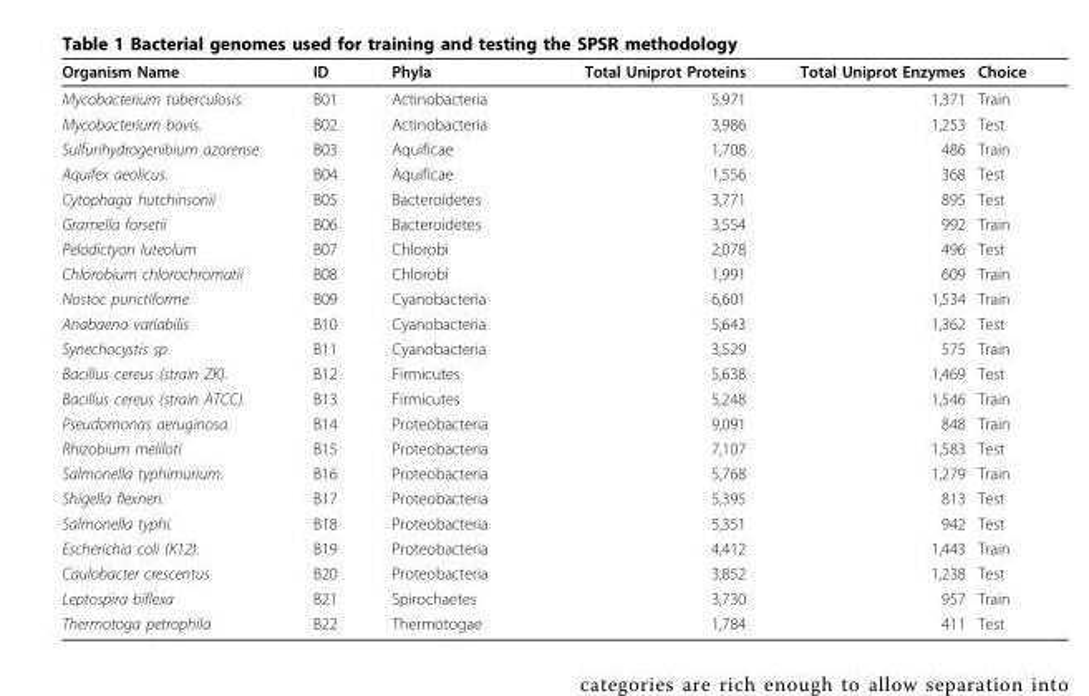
<table><thead><tr><td>Organism Name</td><td>ID</td><td>Phyla</td><td>Total Uniprot Proteins</td><td>Total Uniprot Enzymes</td><td>Choice</td></tr></thead><tbody><tr><td>Mycobacterium tuberculosis.</td><td>B01</td><td>Actinobacteria</td><td>5,971</td><td>1,371</td><td>Train</td></tr><tr><td>Mycobacterium bovis.</td><td>B02</td><td>Actinobacteria</td><td>3,986</td><td>1,253</td><td>Test</td></tr><tr><td>Sulfurihydrogenibium azorense</td><td>B03</td><td>Aquificae</td><td>1,708</td><td>486</td><td>Train</td></tr><tr><td>Aquifex aeolicus.</td><td>B04</td><td>Aquificae</td><td>1,556</td><td>368</td><td>Test</td></tr><tr><td>Cytophaga hutchinsonii</td><td>B05</td><td>Bacteroidetes</td><td>3,771</td><td>895</td><td>Test</td></tr><tr><td>Gramella forsetii</td><td>B06</td><td>Bacteroidetes</td><td>3,554</td><td>992</td><td>Train</td></tr><tr><td>Pelodictyon luteolum</td><td>B07</td><td>Chlorobi</td><td>2,078</td><td>496</td><td>Test</td></tr><tr><td>Chlorobium chlorochromatii</td><td>B08</td><td>Chlorobi</td><td>1,991</td><td>609</td><td>Train</td></tr><tr><td>Nostoc punctiforme</td><td>B09</td><td>Cyanobacteria</td><td>6,601</td><td>1,534</td><td>Train</td></tr><tr><td>Anabaena variabilis</td><td>B10</td><td>Cyanobacteria</td><td>5,643</td><td>1,362</td><td>Test</td></tr><tr><td>Synechocystis sp</td><td>B11</td><td>Cyanobacteria</td><td>3,529</td><td>575</td><td>Train</td></tr><tr><td>Bacillus cereus (strain ZK).</td><td>B12</td><td>Firmicutes</td><td>5,638</td><td>1,469</td><td>Test</td></tr><tr><td>Bacillus cereus (strain ATCC).</td><td>B13</td><td>Firmicutes</td><td>5,248</td><td>1,546</td><td>Train</td></tr><tr><td>Pseudomonas aeruginosa.</td><td>B14</td><td>Proteobacteria</td><td>9,091</td><td>848</td><td>Train</td></tr><tr><td>Rhizobium meliloti</td><td>B15</td><td>Proteobacteria</td><td>7,107</td><td>1,583</td><td>Test</td></tr><tr><td>Salmonella typhimurium.</td><td>B16</td><td>Proteobacteria</td><td>5,768</td><td>1,279</td><td>Train</td></tr><tr><td>Shigella flexneri.</td><td>B17</td><td>Proteobacteria</td><td>5,395</td><td>813</td><td>Test</td></tr><tr><td>Salmonella typhi.</td><td>B18</td><td>Proteobacteria</td><td>5,351</td><td>942</td><td>Test</td></tr><tr><td>Escherichia coli (K12).</td><td>B19</td><td>Proteobacteria</td><td>4,412</td><td>1,443</td><td>Train</td></tr><tr><td>Caulobacter crescentus</td><td>B20</td><td>Proteobacteria</td><td>3,852</td><td>1,238</td><td>Test</td></tr><tr><td>Leptospira biflexa</td><td>B21</td><td>Spirochaetes</td><td>3,730</td><td>957</td><td>Train</td></tr><tr><td>Thermotoga petrophila</td><td>B22</td><td>Thermotogae</td><td>1,784</td><td>411</td><td>Test</td></tr></tbody></table>